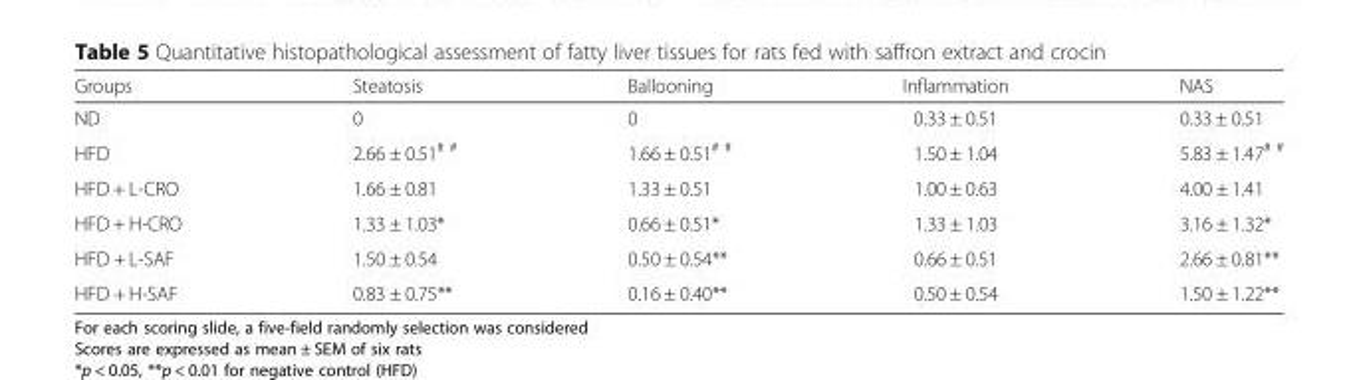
<table><thead><tr><td>Groups</td><td>Steatosis</td><td>Ballooning</td><td>Inflammation</td><td>NAS</td></tr></thead><tbody><tr><td>ND</td><td>0</td><td>0</td><td>0.33 ± 0.51</td><td>0.33 ± 0.51</td></tr><tr><td>HFD</td><td>2.66 ± 0.51<sup># #</sup></td><td>1.66 ± 0.51<sup># #</sup></td><td>1.50 ± 1.04</td><td>5.83 ± 1.47<sup># #</sup></td></tr><tr><td>HFD + L-CRO</td><td>1.66 ± 0.81</td><td>1.33 ± 0.51</td><td>1.00 ± 0.63</td><td>4.00 ± 1.41</td></tr><tr><td>HFD + H-CRO</td><td>1.33 ± 1.03*</td><td>0.66 ± 0.51*</td><td>1.33 ± 1.03</td><td>3.16 ± 1.32*</td></tr><tr><td>HFD + L-SAF</td><td>1.50 ± 0.54</td><td>0.50 ± 0.54**</td><td>0.66 ± 0.51</td><td>2.66 ± 0.81**</td></tr><tr><td>HFD + H-SAF</td><td>0.83 ± 0.75**</td><td>0.16 ± 0.40**</td><td>0.50 ± 0.54</td><td>1.50 ± 1.22**</td></tr></tbody></table>